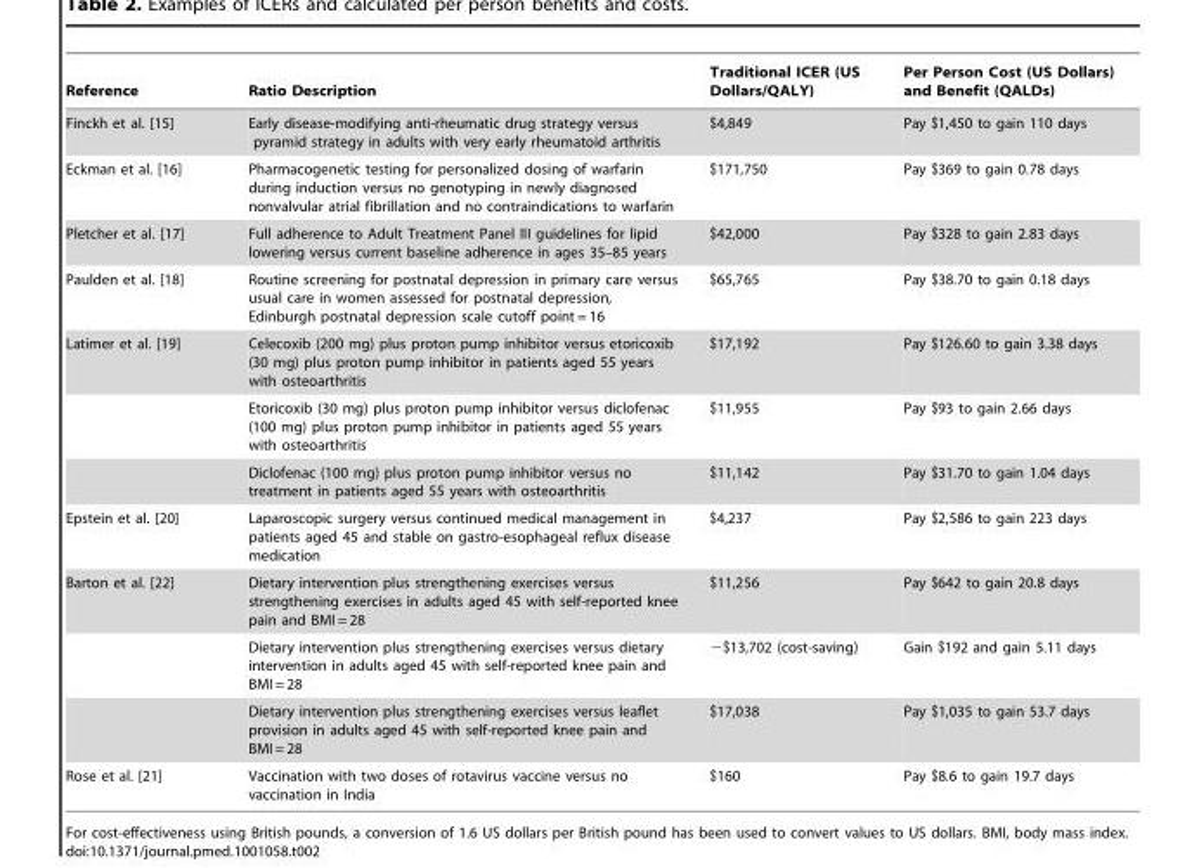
<table><thead><tr><td>Reference</td><td>Ratio Description</td><td>Traditional ICER (US Dollars/QALY)</td><td>Per Person Cost (US Dollars) and Benefit (QALDs)</td></tr></thead><tbody><tr><td>Finckh et al. [15]</td><td>Early disease-modifying anti-rheumatic drug strategy versus pyramid strategy in adults with very early rheumatoid arthritis</td><td>$4,849</td><td>Pay $1,450 to gain 110 days</td></tr><tr><td>Eckman et al. [16]</td><td>Pharmacogenetic testing for personalized dosing of warfarin during induction versus no genotyping in newly diagnosed nonvalvular atrial fibrillation and no contraindications to warfarin</td><td>$171,750</td><td>Pay $369 to gain 0.78 days</td></tr><tr><td>Pletcher et al. [17]</td><td>Full adherence to Adult Treatment Panel III guidelines for lipid lowering versus current baseline adherence in ages 35–85 years</td><td>$42,000</td><td>Pay $328 to gain 2.83 days</td></tr><tr><td>Paulden et al. [18]</td><td>Routine screening for postnatal depression in primary care versus usual care in women assessed for postnatal depression, Edinburgh postnatal depression scale cutoff point = 16</td><td>$65,765</td><td>Pay $38.70 to gain 0.18 days</td></tr><tr><td rowspan="3">Latimer et al. [19]</td><td>Celecoxib (200 mg) plus proton pump inhibitor versus etoricoxib (30 mg) plus proton pump inhibitor in patients aged 55 years with osteoarthritis</td><td>$17,192</td><td>Pay $126.60 to gain 3.38 days</td></tr><tr><td>Etoricoxib (30 mg) plus proton pump inhibitor versus diclofenac (100 mg) plus proton pump inhibitor in patients aged 55 years with osteoarthritis</td><td>$11,955</td><td>Pay $93 to gain 2.66 days</td></tr><tr><td>Diclofenac (100 mg) plus proton pump inhibitor versus no treatment in patients aged 55 years with osteoarthritis</td><td>$11,142</td><td>Pay $31.70 to gain 1.04 days</td></tr><tr><td>Epstein et al. [20]</td><td>Laparoscopic surgery versus continued medical management in patients aged 45 and stable on gastro-esophageal reflux disease medication</td><td>$4,237</td><td>Pay $2,586 to gain 223 days</td></tr><tr><td rowspan="3">Barton et al. [22]</td><td>Dietary intervention plus strengthening exercises versus strengthening exercises in adults aged 45 with self-reported knee pain and BMI = 28</td><td>$11,256</td><td>Pay $642 to gain 20.8 days</td></tr><tr><td>Dietary intervention plus strengthening exercises versus dietary intervention in adults aged 45 with self-reported knee pain and BMI = 28</td><td>−$13,702 (cost-saving)</td><td>Gain $192 and gain 5.11 days</td></tr><tr><td>Dietary intervention plus strengthening exercises versus leaflet provision in adults aged 45 with self-reported knee pain and BMI = 28</td><td>$17,038</td><td>Pay $1,035 to gain 53.7 days</td></tr><tr><td>Rose et al. [21]</td><td>Vaccination with two doses of rotavirus vaccine versus no vaccination in India</td><td>$160</td><td>Pay $8.6 to gain 19.7 days</td></tr></tbody></table>